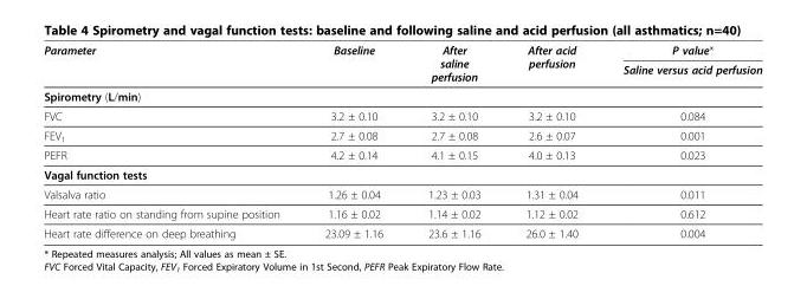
<table><thead><tr><td rowspan="3">Parameter Spirometry (L/min)</td><td rowspan="3">Baseline</td><td rowspan="3">After saline perfusion</td><td rowspan="3">After acid perfusion</td><td rowspan="3">P value* Saline versus acid perfusion</td></tr><tr></tr><tr></tr></thead><tbody><tr><td>FVC</td><td>3.2 ± 0.10</td><td>3.2 ± 0.10</td><td>3.2 ± 0.10</td><td>0.084</td></tr><tr><td>FEV<sub>1</sub></td><td>2.7 ± 0.08</td><td>2.7 ± 0.08</td><td>2.6 ± 0.07</td><td>0.001</td></tr><tr><td>PEFR</td><td>4.2 ± 0.14</td><td>4.1 ± 0.15</td><td>4.0 ± 0.13</td><td>0.023</td></tr><tr><td colspan="5">Vagal function tests</td></tr><tr><td>Valsalva ratio</td><td>1.26 ± 0.04</td><td>1.23 ± 0.03</td><td>1.31 ± 0.04</td><td>0.011</td></tr><tr><td>Heart rate ratio on standing from supine position</td><td>1.16 ± 0.02</td><td>1.14 ± 0.02</td><td>1.12 ± 0.02</td><td>0.612</td></tr><tr><td>Heart rate difference on deep breathing</td><td>23.09 ± 1.16</td><td>23.6 ± 1.16</td><td>26.0 ± 1.40</td><td>0.004</td></tr></tbody></table>